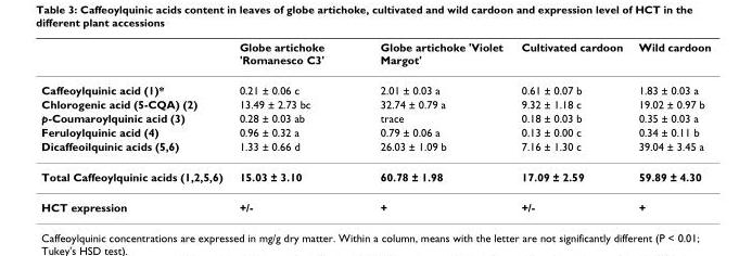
<table><thead><tr><td></td><td>Globe artichoke &#x27;Romanesco C3&#x27;</td><td>Globe artichoke &#x27;Violet Margot&#x27;</td><td>Cultivated cardoon</td><td>Wild cardoon</td></tr></thead><tbody><tr><td>Caffeoylquinic acid (1)*</td><td>0.21 ± 0.06 c</td><td>2.01 ± 0.03 a</td><td>0.61 ± 0.07 b</td><td>1.83 ± 0.03 a</td></tr><tr><td>Chlorogenic acid (5-CQA) (2)</td><td>13.49 ± 2.73 bc</td><td>32.74 ± 0.79 a</td><td>9.32 ± 1.18 c</td><td>19.02 ± 0.97 b</td></tr><tr><td>p-Coumaroylquinic acid (3)</td><td>0.28 ± 0.03 ab</td><td>trace</td><td>0.18 ± 0.03 b</td><td>0.35 ± 0.03 a</td></tr><tr><td>Feruloylquinic acid (4)</td><td>0.96 ± 0.32 a</td><td>0.79 ± 0.06 a</td><td>0.13 ± 0.00 c</td><td>0.34 ± 0.11 b</td></tr><tr><td>Dicaffeoilquinic acids (5,6)</td><td>1.33 ± 0.66 d</td><td>26.03 ± 1.09 b</td><td>7.16 ± 1.30 c</td><td>39.04 ± 3.45 a</td></tr><tr><td>Total Caffeoylquinic acids (1,2,5,6)</td><td>15.03 ± 3.10</td><td>60.78 ± 1.98</td><td>17.09 ± 2.59</td><td>59.89 ± 4.30</td></tr><tr><td>HCT expression</td><td>+/-</td><td>+</td><td>+/-</td><td>+</td></tr></tbody></table>